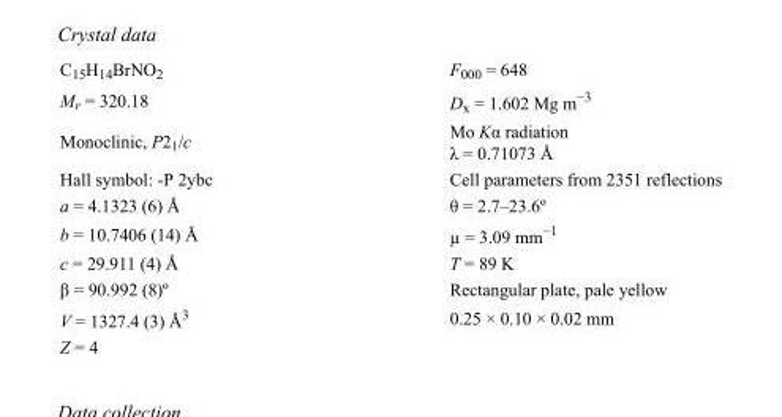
<table><tbody><tr><td>C<sub>15</sub>H<sub>14</sub>BrNO<sub>2</sub></td><td>F000 = 648</td></tr><tr><td>M<sub>r</sub> = 320.18</td><td>D<sub>x</sub> = 1.602 Mg m<sup>−3</sup></td></tr><tr><td>Monoclinic, P2<sub>1</sub>/c</td><td>Mo Kα radiation λ = 0.71073 Å</td></tr><tr><td>Hall symbol: -P 2ybc</td><td>Cell parameters from 2351 reflections</td></tr><tr><td>a = 4.1323 (6) Å</td><td>θ = 2.7–23.6º</td></tr><tr><td>b = 10.7406 (14) Å</td><td>µ = 3.09 mm<sup>−1</sup></td></tr><tr><td>c = 29.911 (4) Å</td><td>T = 89 K</td></tr><tr><td>β = 90.992 (8)º</td><td>Rectangular plate, pale yellow</td></tr><tr><td>V = 1327.4 (3) Å<sup>3</sup></td><td>0.25 × 0.10 × 0.02 mm</td></tr><tr><td>Z = 4</td><td></td></tr></tbody></table>